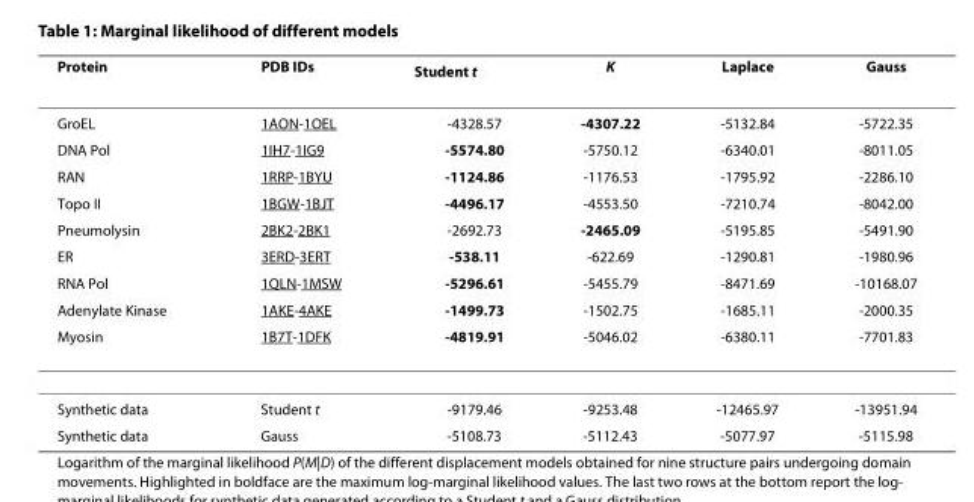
<table><thead><tr><td>Protein</td><td>PDB IDs</td><td>Student t</td><td>K</td><td>Laplace</td><td>Gauss</td></tr></thead><tbody><tr><td>GroEL</td><td>1AON-1OEL</td><td>-4328.57</td><td>-4307.22</td><td>-5132.84</td><td>-5722.35</td></tr><tr><td>DNA Pol</td><td>1IH7-1IG9</td><td>-5574.80</td><td>-5750.12</td><td>-6340.01</td><td>-8011.05</td></tr><tr><td>RAN</td><td>1RRP-1BYU</td><td>-1124.86</td><td>-1176.53</td><td>-1795.92</td><td>-2286.10</td></tr><tr><td>Topo II</td><td>1BGW-1BJT</td><td>-4496.17</td><td>-4553.50</td><td>-7210.74</td><td>-8042.00</td></tr><tr><td>Pneumolysin</td><td>2BK2-2BK1</td><td>-2692.73</td><td>-2465.09</td><td>-5195.85</td><td>-5491.90</td></tr><tr><td>ER</td><td>3ERD-3ERT</td><td>-538.11</td><td>-622.69</td><td>-1290.81</td><td>-1980.96</td></tr><tr><td>RNA Pol</td><td>1QLN-1MSW</td><td>-5296.61</td><td>-5455.79</td><td>-8471.69</td><td>-10168.07</td></tr><tr><td>Adenylate Kinase</td><td>1AKE-4AKE</td><td>-1499.73</td><td>-1502.75</td><td>-1685.11</td><td>-2000.35</td></tr><tr><td>Myosin</td><td>1B7T-1DFK</td><td>-4819.91</td><td>-5046.02</td><td>-6380.11</td><td>-7701.83</td></tr><tr><td>Synthetic data</td><td>Student t</td><td>-9179.46</td><td>-9253.48</td><td>-12465.97</td><td>-13951.94</td></tr><tr><td>Synthetic data</td><td>Gauss</td><td>-5108.73</td><td>-5112.43</td><td>-5077.97</td><td>-5115.98</td></tr></tbody></table>